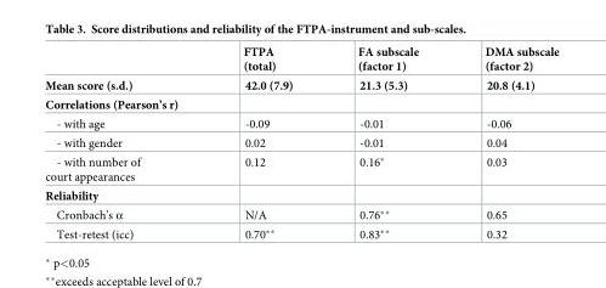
<table><thead><tr><td></td><td>FTPA (total)</td><td>FA subscale (factor 1)</td><td>DMA subscale (factor 2)</td></tr></thead><tbody><tr><td>Mean score (s.d.)</td><td>42.0 (7.9)</td><td>21.3 (5.3)</td><td>20.8 (4.1)</td></tr><tr><td colspan="4">Correlations (Pearson’s r)</td></tr><tr><td>- with age</td><td>-0.09</td><td>-0.01</td><td>-0.06</td></tr><tr><td>- with gender</td><td>0.02</td><td>-0.01</td><td>0.04</td></tr><tr><td>- with number of court appearances</td><td>0.12</td><td>0.16*</td><td>0.03</td></tr><tr><td colspan="4">Reliability</td></tr><tr><td>Cronbach’s α</td><td>N/A</td><td>0.76**</td><td>0.65</td></tr><tr><td>Test-retest (icc)</td><td>0.70**</td><td>0.83**</td><td>0.32</td></tr></tbody></table>